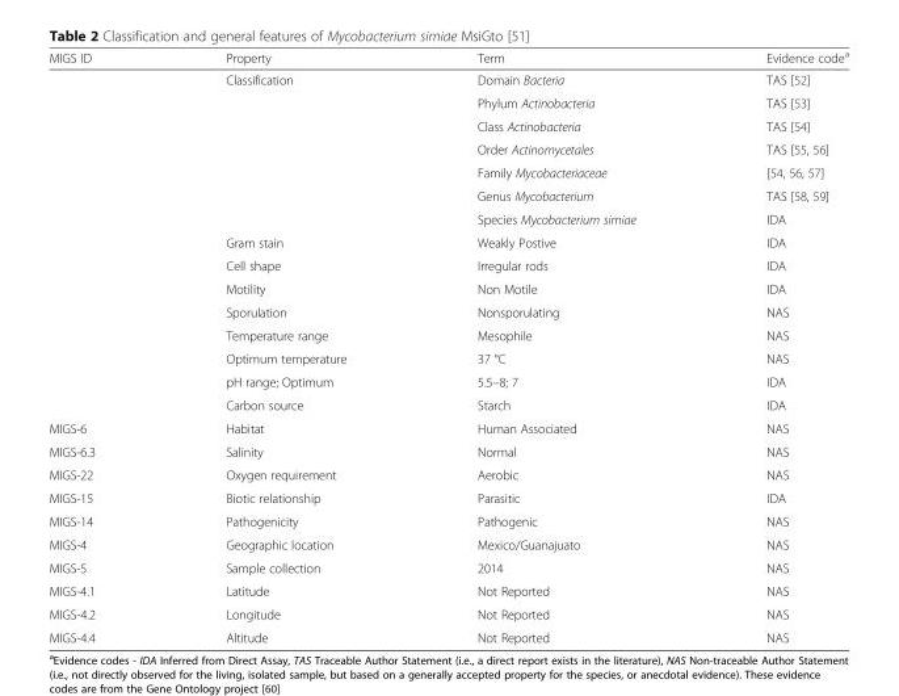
<table><thead><tr><td>MIGS ID</td><td>Property</td><td>Term</td><td>Evidence code<sup>a</sup></td></tr></thead><tbody><tr><td></td><td>Classification</td><td>Domain Bacteria</td><td>TAS [52]</td></tr><tr><td></td><td></td><td>Phylum Actinobacteria</td><td>TAS [53]</td></tr><tr><td></td><td></td><td>Class Actinobacteria</td><td>TAS [54]</td></tr><tr><td></td><td></td><td>Order Actinomycetales</td><td>TAS [55, 56]</td></tr><tr><td></td><td></td><td>Family Mycobacteriaceae</td><td>[54, 56, 57]</td></tr><tr><td></td><td></td><td>Genus Mycobacterium</td><td>TAS [58, 59]</td></tr><tr><td></td><td></td><td>Species Mycobacterium simiae</td><td>IDA</td></tr><tr><td></td><td>Gram stain</td><td>Weakly Postive</td><td>IDA</td></tr><tr><td></td><td>Cell shape</td><td>Irregular rods</td><td>IDA</td></tr><tr><td></td><td>Motility</td><td>Non Motile</td><td>IDA</td></tr><tr><td></td><td>Sporulation</td><td>Nonsporulating</td><td>NAS</td></tr><tr><td></td><td>Temperature range</td><td>Mesophile</td><td>NAS</td></tr><tr><td></td><td>Optimum temperature</td><td>37 °C</td><td>NAS</td></tr><tr><td></td><td>pH range; Optimum</td><td>5.5–8; 7</td><td>IDA</td></tr><tr><td></td><td>Carbon source</td><td>Starch</td><td>IDA</td></tr><tr><td>MIGS-6</td><td>Habitat</td><td>Human Associated</td><td>NAS</td></tr><tr><td>MIGS-6.3</td><td>Salinity</td><td>Normal</td><td>NAS</td></tr><tr><td>MIGS-22</td><td>Oxygen requirement</td><td>Aerobic</td><td>NAS</td></tr><tr><td>MIGS-15</td><td>Biotic relationship</td><td>Parasitic</td><td>IDA</td></tr><tr><td>MIGS-14</td><td>Pathogenicity</td><td>Pathogenic</td><td>NAS</td></tr><tr><td>MIGS-4</td><td>Geographic location</td><td>Mexico/Guanajuato</td><td>NAS</td></tr><tr><td>MIGS-5</td><td>Sample collection</td><td>2014</td><td>NAS</td></tr><tr><td>MIGS-4.1</td><td>Latitude</td><td>Not Reported</td><td>NAS</td></tr><tr><td>MIGS-4.2</td><td>Longitude</td><td>Not Reported</td><td>NAS</td></tr><tr><td>MIGS-4.4</td><td>Altitude</td><td>Not Reported</td><td>NAS</td></tr></tbody></table>